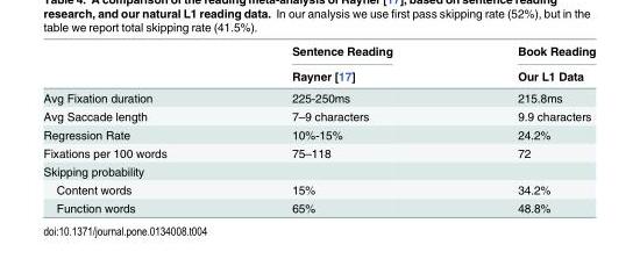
<table><thead><tr><td rowspan="2"></td><td rowspan="2">Sentence Reading Rayner [17]</td><td rowspan="2">Book Reading Our L1 Data</td></tr><tr></tr></thead><tbody><tr><td>Avg Fixation duration</td><td>225-250ms</td><td>215.8ms</td></tr><tr><td>Avg Saccade length</td><td>7–9 characters</td><td>9.9 characters</td></tr><tr><td>Regression Rate</td><td>10%-15%</td><td>24.2%</td></tr><tr><td>Fixations per 100 words</td><td>75–118</td><td>72</td></tr><tr><td colspan="3">Skipping probability</td></tr><tr><td>Content words</td><td>15%</td><td>34.2%</td></tr><tr><td>Function words</td><td>65%</td><td>48.8%</td></tr></tbody></table>